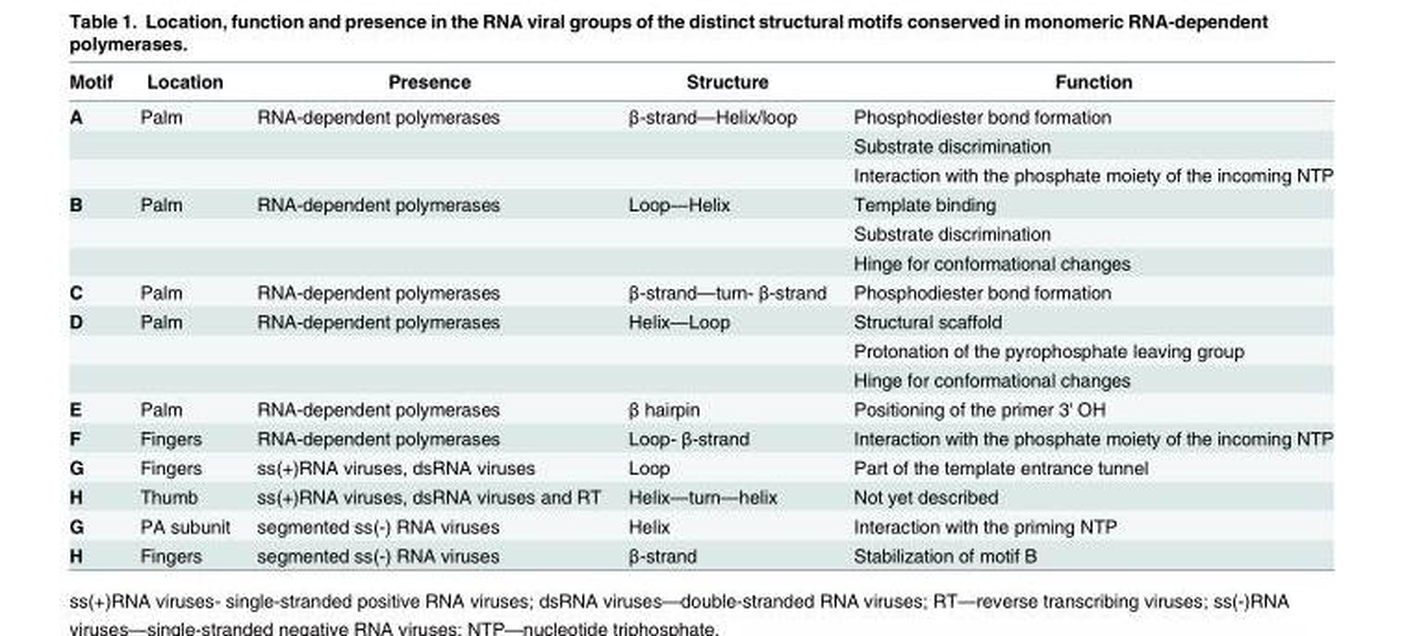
<table><thead><tr><td>Motif</td><td>Location</td><td>Presence</td><td>Structure</td><td>Function</td></tr></thead><tbody><tr><td rowspan="3">A</td><td>Palm</td><td>RNA-dependent polymerases</td><td>β-strand—Helix/loop</td><td>Phosphodiester bond formation</td></tr><tr><td></td><td></td><td></td><td>Substrate discrimination</td></tr><tr><td></td><td></td><td></td><td>Interaction with the phosphate moiety of the incoming NTP</td></tr><tr><td rowspan="3">B</td><td>Palm</td><td>RNA-dependent polymerases</td><td>Loop—Helix</td><td>Template binding</td></tr><tr><td></td><td></td><td></td><td>Substrate discrimination</td></tr><tr><td></td><td></td><td></td><td>Hinge for conformational changes</td></tr><tr><td>C</td><td>Palm</td><td>RNA-dependent polymerases</td><td>β-strand—turn- β-strand</td><td>Phosphodiester bond formation</td></tr><tr><td rowspan="3">D</td><td>Palm</td><td>RNA-dependent polymerases</td><td>Helix—Loop</td><td>Structural scaffold</td></tr><tr><td></td><td></td><td></td><td>Protonation of the pyrophosphate leaving group</td></tr><tr><td></td><td></td><td></td><td>Hinge for conformational changes</td></tr><tr><td>E</td><td>Palm</td><td>RNA-dependent polymerases</td><td>β hairpin</td><td>Positioning of the primer 3&#x27; OH</td></tr><tr><td>F</td><td>Fingers</td><td>RNA-dependent polymerases</td><td>Loop- β-strand</td><td>Interaction with the phosphate moiety of the incoming NTP</td></tr><tr><td>G</td><td>Fingers</td><td>ss(+)RNA viruses, dsRNA viruses</td><td>Loop</td><td>Part of the template entrance tunnel</td></tr><tr><td>H</td><td>Thumb</td><td>ss(+)RNA viruses, dsRNA viruses and RT</td><td>Helix—turn—helix</td><td>Not yet described</td></tr><tr><td>G</td><td>PA subunit</td><td>segmented ss(-) RNA viruses</td><td>Helix</td><td>Interaction with the priming NTP</td></tr><tr><td>H</td><td>Fingers</td><td>segmented ss(-) RNA viruses</td><td>β-strand</td><td>Stabilization of motif B</td></tr></tbody></table>